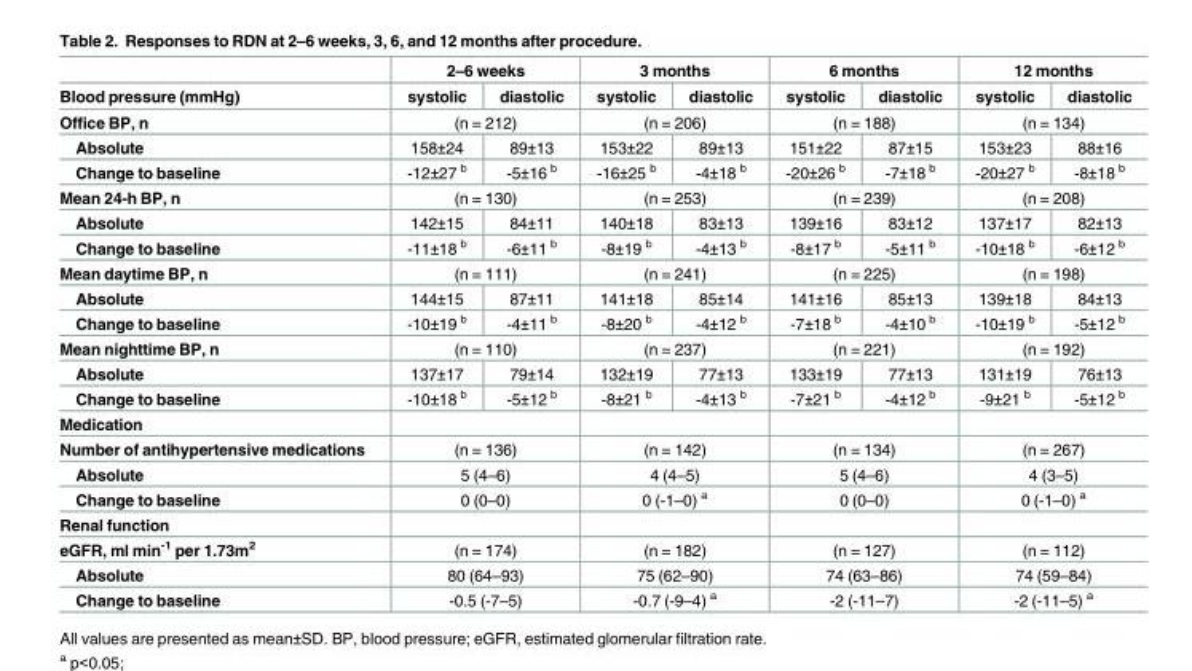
<table><thead><tr><td rowspan="2">Blood pressure (mmHg)</td><td colspan="2">2–6 weeks</td><td colspan="2">3 months</td><td colspan="2">6 months</td><td colspan="2">12 months</td></tr><tr><td>systolic</td><td>diastolic</td><td>systolic</td><td>diastolic</td><td>systolic</td><td>diastolic</td><td>systolic</td><td>diastolic</td></tr></thead><tbody><tr><td>Office BP, n</td><td colspan="2">(n = 212)</td><td colspan="2">(n = 206)</td><td colspan="2">(n = 188)</td><td colspan="2">(n = 134)</td></tr><tr><td>Absolute</td><td>158±24</td><td>89±13</td><td>153±22</td><td>89±13</td><td>151±22</td><td>87±15</td><td>153±23</td><td>88±16</td></tr><tr><td>Change to baseline</td><td>-12±27 <sup>b</sup></td><td>-5±16 <sup>b</sup></td><td>-16±25 <sup>b</sup></td><td>-4±18 <sup>b</sup></td><td>-20±26 <sup>b</sup></td><td>-7±18 <sup>b</sup></td><td>-20±27 <sup>b</sup></td><td>-8±18 <sup>b</sup></td></tr><tr><td>Mean 24-h BP, n</td><td colspan="2">(n = 130)</td><td colspan="2">(n = 253)</td><td colspan="2">(n = 239)</td><td colspan="2">(n = 208)</td></tr><tr><td>Absolute</td><td>142±15</td><td>84±11</td><td>140±18</td><td>83±13</td><td>139±16</td><td>83±12</td><td>137±17</td><td>82±13</td></tr><tr><td>Change to baseline</td><td>-11±18 <sup>b</sup></td><td>-6±11 <sup>b</sup></td><td>-8±19 <sup>b</sup></td><td>-4±13 <sup>b</sup></td><td>-8±17 <sup>b</sup></td><td>-5±11 <sup>b</sup></td><td>-10±18 <sup>b</sup></td><td>-6±12 <sup>b</sup></td></tr><tr><td>Mean daytime BP, n</td><td colspan="2">(n = 111)</td><td colspan="2">(n = 241)</td><td colspan="2">(n = 225)</td><td colspan="2">(n = 198)</td></tr><tr><td>Absolute</td><td>144±15</td><td>87±11</td><td>141±18</td><td>85±14</td><td>141±16</td><td>85±13</td><td>139±18</td><td>84±13</td></tr><tr><td>Change to baseline</td><td>-10±19 <sup>b</sup></td><td>-4±11 <sup>b</sup></td><td>-8±20 <sup>b</sup></td><td>-4±12 <sup>b</sup></td><td>-7±18 <sup>b</sup></td><td>-4±10 <sup>b</sup></td><td>-10±19 <sup>b</sup></td><td>-5±12 <sup>b</sup></td></tr><tr><td>Mean nighttime BP, n</td><td colspan="2">(n = 110)</td><td colspan="2">(n = 237)</td><td colspan="2">(n = 221)</td><td colspan="2">(n = 192)</td></tr><tr><td>Absolute</td><td>137±17</td><td>79±14</td><td>132±19</td><td>77±13</td><td>133±19</td><td>77±13</td><td>131±19</td><td>76±13</td></tr><tr><td>Change to baseline</td><td>-10±18 <sup>b</sup></td><td>-5±12 <sup>b</sup></td><td>-8±21 <sup>b</sup></td><td>-4±13 <sup>b</sup></td><td>-7±21 <sup>b</sup></td><td>-4±12 <sup>b</sup></td><td>-9±21 <sup>b</sup></td><td>-5±12 <sup>b</sup></td></tr><tr><td colspan="9">Medication</td></tr><tr><td>Number of antihypertensive medications</td><td colspan="2">(n = 136)</td><td colspan="2">(n = 142)</td><td colspan="2">(n = 134)</td><td colspan="2">(n = 267)</td></tr><tr><td>Absolute</td><td colspan="2">5 (4–6)</td><td colspan="2">4 (4–5)</td><td colspan="2">5 (4–6)</td><td colspan="2">4 (3–5)</td></tr><tr><td>Change to baseline</td><td colspan="2">0 (0–0)</td><td colspan="2">0 (-1–0) <sup>a</sup></td><td colspan="2">0 (0–0)</td><td colspan="2">0 (-1–0) <sup>a</sup></td></tr><tr><td colspan="9">Renal function</td></tr><tr><td>eGFR, ml min<sup>-1</sup> per 1.73m<sup>2</sup></td><td colspan="2">(n = 174)</td><td colspan="2">(n = 182)</td><td colspan="2">(n = 127)</td><td colspan="2">(n = 112)</td></tr><tr><td>Absolute</td><td colspan="2">80 (64–93)</td><td colspan="2">75 (62–90)</td><td colspan="2">74 (63–86)</td><td colspan="2">74 (59–84)</td></tr><tr><td>Change to baseline</td><td colspan="2">-0.5 (-7–5)</td><td colspan="2">-0.7 (-9–4) <sup>a</sup></td><td colspan="2">-2 (-11–7)</td><td colspan="2">-2 (-11–5) <sup>a</sup></td></tr></tbody></table>